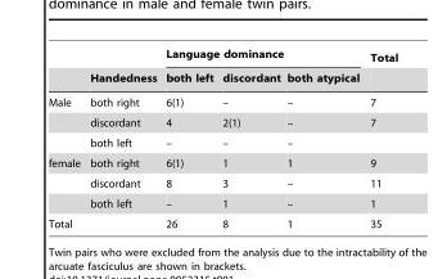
<table><thead><tr><td rowspan="2"></td><td rowspan="2">Handedness</td><td colspan="3">Language dominance</td><td rowspan="2">Total</td></tr><tr><td>both left</td><td>discordant</td><td>both atypical</td></tr></thead><tbody><tr><td rowspan="3">Male</td><td>both right</td><td>6(1)</td><td>–</td><td>–</td><td>7</td></tr><tr><td>discordant</td><td>4</td><td>2(1)</td><td>–</td><td>7</td></tr><tr><td>both left</td><td>–</td><td>–</td><td>–</td><td></td></tr><tr><td rowspan="3">female</td><td>both right</td><td>6(1)</td><td>1</td><td>1</td><td>9</td></tr><tr><td>discordant</td><td>8</td><td>3</td><td>–</td><td>11</td></tr><tr><td>both left</td><td>–</td><td>1</td><td>–</td><td>1</td></tr><tr><td>Total</td><td></td><td>26</td><td>8</td><td>1</td><td>35</td></tr></tbody></table>